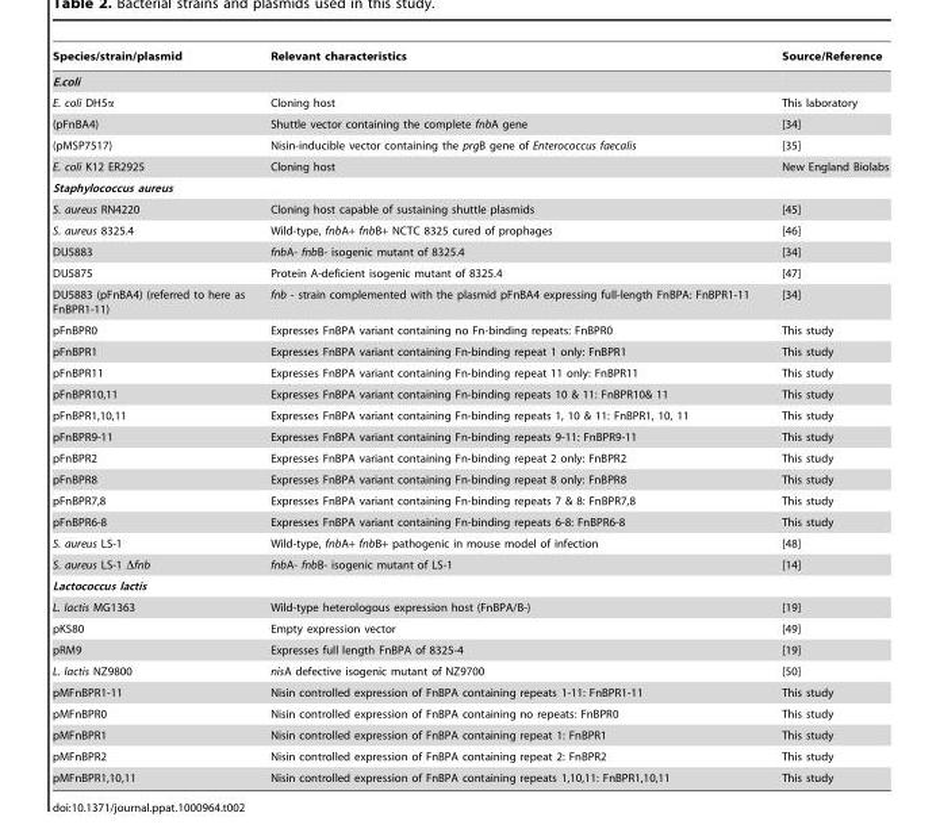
<table><thead><tr><td>Species/strain/plasmid</td><td>Relevant characteristics</td><td>Source/Reference</td></tr></thead><tbody><tr><td colspan="3">E.coli</td></tr><tr><td>E. coli DH5α</td><td>Cloning host</td><td>This laboratory</td></tr><tr><td>(pFnBA4)</td><td>Shuttle vector containing the complete fnbA gene</td><td>[34]</td></tr><tr><td>(pMSP7517)</td><td>Nisin-inducible vector containing the prgB gene of Enterococcus faecalis</td><td>[35]</td></tr><tr><td>E. coli K12 ER2925</td><td>Cloning host</td><td>New England Biolabs</td></tr><tr><td colspan="3">Staphylococcus aureus</td></tr><tr><td>S. aureus RN4220</td><td>Cloning host capable of sustaining shuttle plasmids</td><td>[45]</td></tr><tr><td>S. aureus 8325.4</td><td>Wild-type, fnbA+ fnbB+ NCTC 8325 cured of prophages</td><td>[46]</td></tr><tr><td>DU5883</td><td>fnbA- fnbB- isogenic mutant of 8325.4</td><td>[34]</td></tr><tr><td>DU5875</td><td>Protein A-deficient isogenic mutant of 8325.4</td><td>[47]</td></tr><tr><td>DU5883 (pFnBA4) (referred to here as FnBPR1-11)</td><td>fnb - strain complemented with the plasmid pFnBA4 expressing full-length FnBPA: FnBPR1-11</td><td>[34]</td></tr><tr><td>pFnBPR0</td><td>Expresses FnBPA variant containing no Fn-binding repeats: FnBPR0</td><td>This study</td></tr><tr><td>pFnBPR1</td><td>Expresses FnBPA variant containing Fn-binding repeat 1 only: FnBPR1</td><td>This study</td></tr><tr><td>pFnBPR11</td><td>Expresses FnBPA variant containing Fn-binding repeat 11 only: FnBPR11</td><td>This study</td></tr><tr><td>pFnBPR10,11</td><td>Expresses FnBPA variant containing Fn-binding repeats 10 &amp; 11: FnBPR10&amp; 11</td><td>This study</td></tr><tr><td>pFnBPR1,10,11</td><td>Expresses FnBPA variant containing Fn-binding repeats 1, 10 &amp; 11: FnBPR1, 10, 11</td><td>This study</td></tr><tr><td>pFnBPR9-11</td><td>Expresses FnBPA variant containing Fn-binding repeats 9-11: FnBPR9-11</td><td>This study</td></tr><tr><td>pFnBPR2</td><td>Expresses FnBPA variant containing Fn-binding repeat 2 only: FnBPR2</td><td>This study</td></tr><tr><td>pFnBPR8</td><td>Expresses FnBPA variant containing Fn-binding repeat 8 only: FnBPR8</td><td>This study</td></tr><tr><td>pFnBPR7,8</td><td>Expresses FnBPA variant containing Fn-binding repeats 7 &amp; 8: FnBPR7,8</td><td>This study</td></tr><tr><td>pFnBPR6-8</td><td>Expresses FnBPA variant containing Fn-binding repeats 6-8: FnBPR6-8</td><td>This study</td></tr><tr><td>S. aureus LS-1</td><td>Wild-type, fnbA+ fnbB+ pathogenic in mouse model of infection</td><td>[48]</td></tr><tr><td>S. aureus LS-1 Δfnb</td><td>fnbA- fnbB- isogenic mutant of LS-1</td><td>[14]</td></tr><tr><td colspan="3">Lactococcus lactis</td></tr><tr><td>L. lactis MG1363</td><td>Wild-type heterologous expression host (FnBPA/B-)</td><td>[19]</td></tr><tr><td>pKS80</td><td>Empty expression vector</td><td>[49]</td></tr><tr><td>pRM9</td><td>Expresses full length FnBPA of 8325-4</td><td>[19]</td></tr><tr><td>L. lactis NZ9800</td><td>nisA defective isogenic mutant of NZ9700</td><td>[50]</td></tr><tr><td>pMFnBPR1-11</td><td>Nisin controlled expression of FnBPA containing repeats 1-11: FnBPR1-11</td><td>This study</td></tr><tr><td>pMFnBPR0</td><td>Nisin controlled expression of FnBPA containing no repeats: FnBPR0</td><td>This study</td></tr><tr><td>pMFnBPR1</td><td>Nisin controlled expression of FnBPA containing repeat 1: FnBPR1</td><td>This study</td></tr><tr><td>pMFnBPR2</td><td>Nisin controlled expression of FnBPA containing repeat 2: FnBPR2</td><td>This study</td></tr><tr><td>pMFnBPR1,10,11</td><td>Nisin controlled expression of FnBPA containing repeats 1,10,11: FnBPR1,10,11</td><td>This study</td></tr></tbody></table>